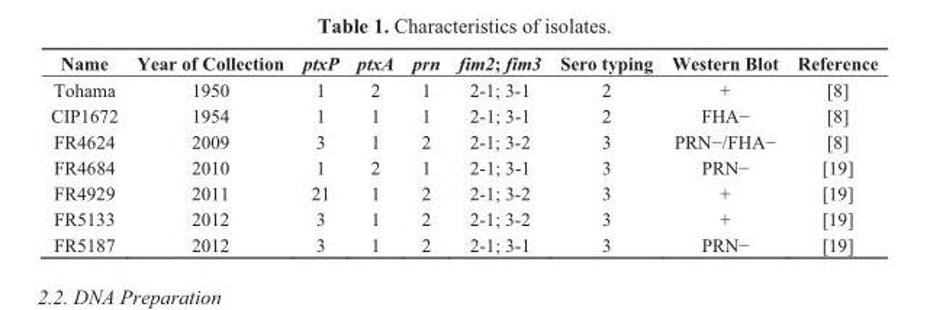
<table><thead><tr><td>Name</td><td>Year of Collection</td><td>ptxP</td><td>ptxA</td><td>prn</td><td>fim2; fim3</td><td>Sero typing</td><td>Western Blot</td><td>Reference</td></tr></thead><tbody><tr><td>Tohama</td><td>1950</td><td>1</td><td>2</td><td>1</td><td>2-1; 3-1</td><td>2</td><td>+</td><td>[8]</td></tr><tr><td>CIP1672</td><td>1954</td><td>1</td><td>1</td><td>1</td><td>2-1; 3-1</td><td>2</td><td>FHA−</td><td>[8]</td></tr><tr><td>FR4624</td><td>2009</td><td>3</td><td>1</td><td>2</td><td>2-1; 3-2</td><td>3</td><td>PRN−/FHA−</td><td>[8]</td></tr><tr><td>FR4684</td><td>2010</td><td>1</td><td>2</td><td>1</td><td>2-1; 3-1</td><td>3</td><td>PRN−</td><td>[19]</td></tr><tr><td>FR4929</td><td>2011</td><td>21</td><td>1</td><td>2</td><td>2-1; 3-2</td><td>3</td><td>+</td><td>[19]</td></tr><tr><td>FR5133</td><td>2012</td><td>3</td><td>1</td><td>2</td><td>2-1; 3-2</td><td>3</td><td>+</td><td>[19]</td></tr><tr><td>FR5187</td><td>2012</td><td>3</td><td>1</td><td>2</td><td>2-1; 3-1</td><td>3</td><td>PRN−</td><td>[19]</td></tr></tbody></table>